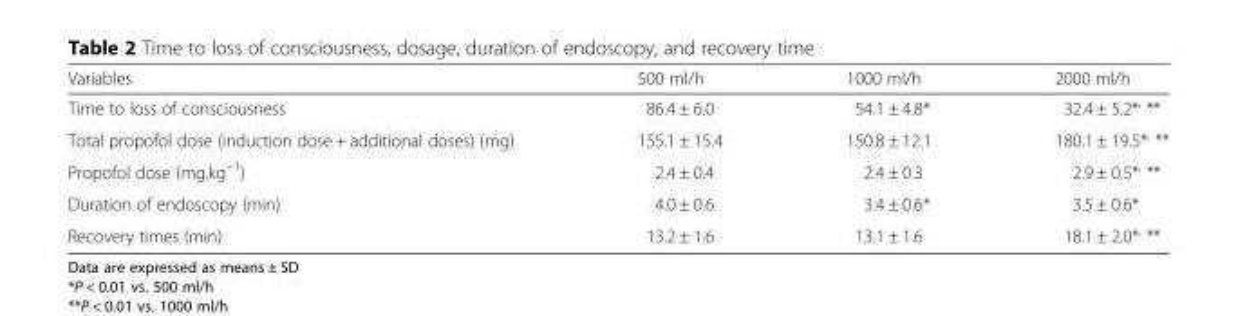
<table><thead><tr><td>Variables</td><td>500 ml/h</td><td>1000 ml/h</td><td>2000 ml/h</td></tr></thead><tbody><tr><td>Time to loss of consciousness</td><td>86.4 ± 6.0</td><td>54.1 ± 4.8*</td><td>32.4 ± 5.2*<sup>,</sup> **</td></tr><tr><td>Total propofol dose (induction dose + additional doses) (mg)</td><td>155.1 ± 15.4</td><td>150.8 ± 12.1</td><td>180.1 ± 19.5*<sup>,</sup> **</td></tr><tr><td>Propofol dose (mg.kg<sup>−1</sup>)</td><td>2.4 ± 0.4</td><td>2.4 ± 0.3</td><td>2.9 ± 0.5*<sup>,</sup> **</td></tr><tr><td>Duration of endoscopy (min)</td><td>4.0 ± 0.6</td><td>3.4 ± 0.6*</td><td>3.5 ± 0.6*</td></tr><tr><td>Recovery times (min)</td><td>13.2 ± 1.6</td><td>13.1 ± 1.6</td><td>18.1 ± 2.0*<sup>,</sup> **</td></tr></tbody></table>